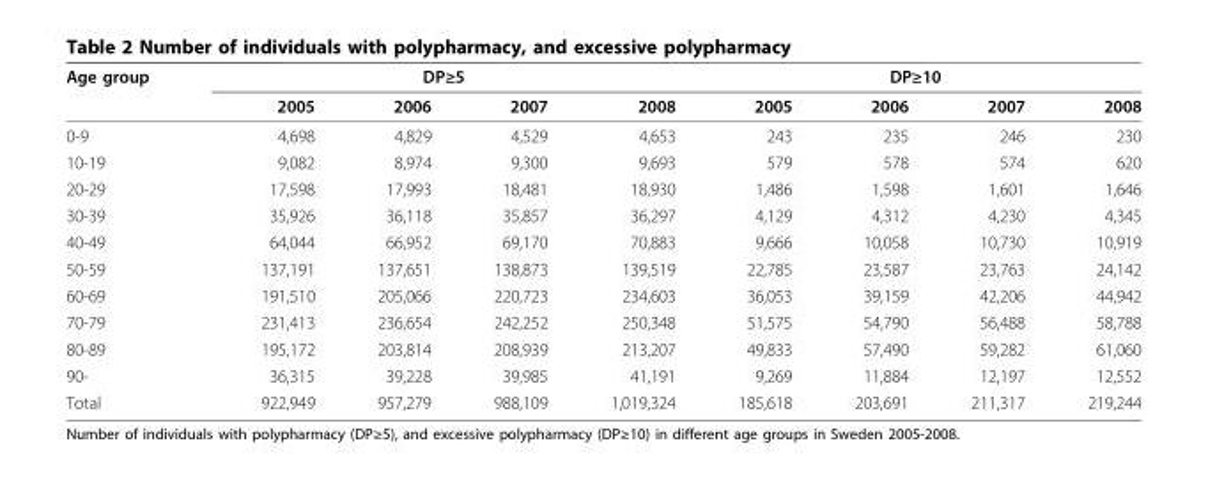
<table><thead><tr><td rowspan="2">Age group</td><td colspan="4">DP≥5</td><td colspan="4">DP≥10</td></tr><tr><td>2005</td><td>2006</td><td>2007</td><td>2008</td><td>2005</td><td>2006</td><td>2007</td><td>2008</td></tr></thead><tbody><tr><td>0-9</td><td>4,698</td><td>4,829</td><td>4,529</td><td>4,653</td><td>243</td><td>235</td><td>246</td><td>230</td></tr><tr><td>10-19</td><td>9,082</td><td>8,974</td><td>9,300</td><td>9,693</td><td>579</td><td>578</td><td>574</td><td>620</td></tr><tr><td>20-29</td><td>17,598</td><td>17,993</td><td>18,481</td><td>18,930</td><td>1,486</td><td>1,598</td><td>1,601</td><td>1,646</td></tr><tr><td>30-39</td><td>35,926</td><td>36,118</td><td>35,857</td><td>36,297</td><td>4,129</td><td>4,312</td><td>4,230</td><td>4,345</td></tr><tr><td>40-49</td><td>64,044</td><td>66,952</td><td>69,170</td><td>70,883</td><td>9,666</td><td>10,058</td><td>10,730</td><td>10,919</td></tr><tr><td>50-59</td><td>137,191</td><td>137,651</td><td>138,873</td><td>139,519</td><td>22,785</td><td>23,587</td><td>23,763</td><td>24,142</td></tr><tr><td>60-69</td><td>191,510</td><td>205,066</td><td>220,723</td><td>234,603</td><td>36,053</td><td>39,159</td><td>42,206</td><td>44,942</td></tr><tr><td>70-79</td><td>231,413</td><td>236,654</td><td>242,252</td><td>250,348</td><td>51,575</td><td>54,790</td><td>56,488</td><td>58,788</td></tr><tr><td>80-89</td><td>195,172</td><td>203,814</td><td>208,939</td><td>213,207</td><td>49,833</td><td>57,490</td><td>59,282</td><td>61,060</td></tr><tr><td>90-</td><td>36,315</td><td>39,228</td><td>39,985</td><td>41,191</td><td>9,269</td><td>11,884</td><td>12,197</td><td>12,552</td></tr><tr><td>Total</td><td>922,949</td><td>957,279</td><td>988,109</td><td>1,019,324</td><td>185,618</td><td>203,691</td><td>211,317</td><td>219,244</td></tr></tbody></table>